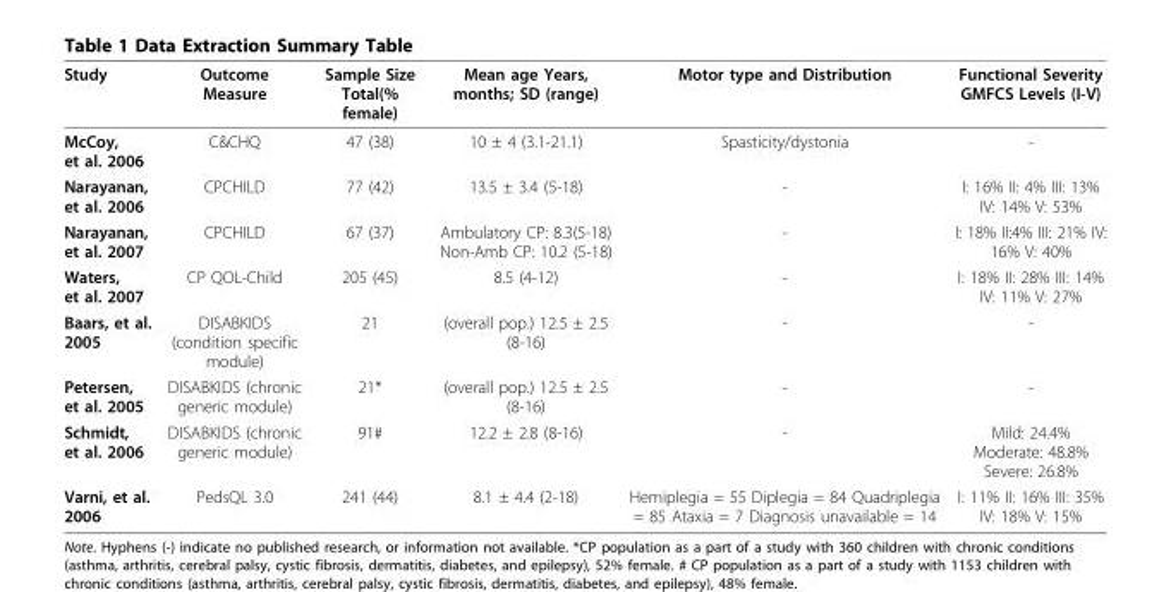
<table><thead><tr><td>Study</td><td>Outcome Measure</td><td>Sample Size Total(% female)</td><td>Mean age Years, months; SD (range)</td><td>Motor type and Distribution</td><td>Functional Severity GMFCS Levels (I-V)</td></tr></thead><tbody><tr><td>McCoy, et al. 2006</td><td>C&amp;CHQ</td><td>47 (38)</td><td>10 ± 4 (3.1-21.1)</td><td>Spasticity/dystonia</td><td>-</td></tr><tr><td>Narayanan, et al. 2006</td><td>CPCHILD</td><td>77 (42)</td><td>13.5 ± 3.4 (5-18)</td><td>-</td><td>I: 16% II: 4% III: 13% IV: 14% V: 53%</td></tr><tr><td>Narayanan, et al. 2007</td><td>CPCHILD</td><td>67 (37)</td><td>Ambulatory CP: 8.3(5-18) Non-Amb CP: 10.2 (5-18)</td><td>-</td><td>I: 18% II:4% III: 21% IV: 16% V: 40%</td></tr><tr><td>Waters, et al. 2007</td><td>CP QOL-Child</td><td>205 (45)</td><td>8.5 (4-12)</td><td>-</td><td>I: 18% II: 28% III: 14% IV: 11% V: 27%</td></tr><tr><td>Baars, et al. 2005</td><td>DISABKIDS (condition specific module)</td><td>21</td><td>(overall pop.) 12.5 ± 2.5 (8-16)</td><td>-</td><td>-</td></tr><tr><td>Petersen, et al. 2005</td><td>DISABKIDS (chronic generic module)</td><td>21*</td><td>(overall pop.) 12.5 ± 2.5 (8-16)</td><td>-</td><td>-</td></tr><tr><td>Schmidt, et al. 2006</td><td>DISABKIDS (chronic generic module)</td><td>91#</td><td>12.2 ± 2.8 (8-16)</td><td>-</td><td>Mild: 24.4% Moderate: 48.8% Severe: 26.8%</td></tr><tr><td>Varni, et al. 2006</td><td>PedsQL 3.0</td><td>241 (44)</td><td>8.1 ± 4.4 (2-18)</td><td>Hemiplegia = 55 Diplegia = 84 Quadriplegia = 85 Ataxia = 7 Diagnosis unavailable = 14</td><td>I: 11% II: 16% III: 35% IV: 18% V: 15%</td></tr></tbody></table>